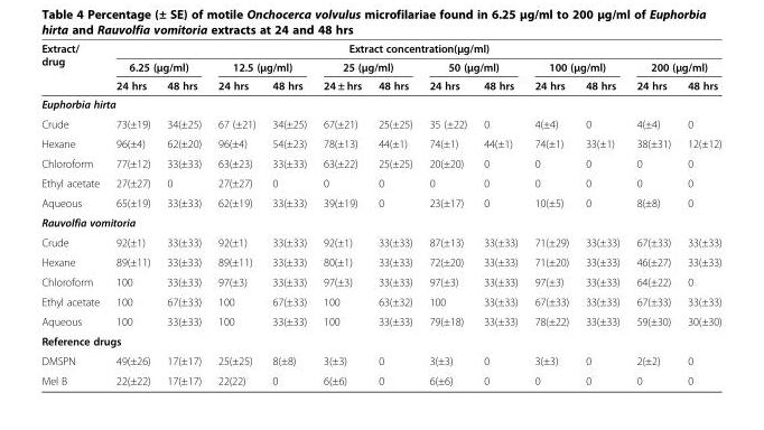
<table><thead><tr><td rowspan="3">Extract/ drug</td><td colspan="12">Extract concentration(μg/ml)</td></tr><tr><td colspan="2">6.25 (μg/ml)</td><td colspan="2">12.5 (μg/ml)</td><td colspan="2">25 (μg/ml)</td><td colspan="2">50 (μg/ml)</td><td colspan="2">100 (μg/ml)</td><td colspan="2">200 (μg/ml)</td></tr><tr><td>24 hrs</td><td>48 hrs</td><td>24 hrs</td><td>48 hrs</td><td>24 ± hrs</td><td>48 hrs</td><td>24 hrs</td><td>48 hrs</td><td>24 hrs</td><td>48 hrs</td><td>24 hrs</td><td>48 hrs</td></tr></thead><tbody><tr><td colspan="13">Euphorbia hirta</td></tr><tr><td>Crude</td><td>73(±19)</td><td>34(±25)</td><td>67 (±21)</td><td>34(±25)</td><td>67(±21)</td><td>25(±25)</td><td>35 (±22)</td><td>0</td><td>4(±4)</td><td>0</td><td>4(±4)</td><td>0</td></tr><tr><td>Hexane</td><td>96(±4)</td><td>62(±20)</td><td>96(±4)</td><td>54(±23)</td><td>78(±13)</td><td>44(±1)</td><td>74(±1)</td><td>44(±1)</td><td>74(±1)</td><td>33(±1)</td><td>38(±31)</td><td>12(±12)</td></tr><tr><td>Chloroform</td><td>77(±12)</td><td>33(±33)</td><td>63(±23)</td><td>33(±33)</td><td>63(±22)</td><td>25(±25)</td><td>20(±20)</td><td>0</td><td>0</td><td>0</td><td>0</td><td>0</td></tr><tr><td>Ethyl acetate</td><td>27(±27)</td><td>0</td><td>27(±27)</td><td>0</td><td>0</td><td>0</td><td>0</td><td>0</td><td>0</td><td>0</td><td>0</td><td>0</td></tr><tr><td>Aqueous</td><td>65(±19)</td><td>33(±33)</td><td>62(±19)</td><td>33(±33)</td><td>39(±19)</td><td>0</td><td>23(±17)</td><td>0</td><td>10(±5)</td><td>0</td><td>8(±8)</td><td>0</td></tr><tr><td colspan="13">Rauvolfia vomitoria</td></tr><tr><td>Crude</td><td>92(±1)</td><td>33(±33)</td><td>92(±1)</td><td>33(±33)</td><td>92(±1)</td><td>33(±33)</td><td>87(±13)</td><td>33(±33)</td><td>71(±29)</td><td>33(±33)</td><td>67(±33)</td><td>33(±33)</td></tr><tr><td>Hexane</td><td>89(±11)</td><td>33(±33)</td><td>89(±11)</td><td>33(±33)</td><td>80(±1)</td><td>33(±33)</td><td>72(±20)</td><td>33(±33)</td><td>71(±20)</td><td>33(±33)</td><td>46(±27)</td><td>33(±33)</td></tr><tr><td>Chloroform</td><td>100</td><td>33(±33)</td><td>97(±3)</td><td>33(±33)</td><td>97(±3)</td><td>33(±33)</td><td>97(±3)</td><td>33(±33)</td><td>97(±3)</td><td>33(±33)</td><td>64(±22)</td><td>0</td></tr><tr><td>Ethyl acetate</td><td>100</td><td>67(±33)</td><td>100</td><td>67(±33)</td><td>100</td><td>63(±32)</td><td>100</td><td>33(±33)</td><td>67(±33)</td><td>33(±33)</td><td>67(±33)</td><td>33(±33)</td></tr><tr><td>Aqueous</td><td>100</td><td>33(±33)</td><td>100</td><td>33(±33)</td><td>100</td><td>33(±33)</td><td>79(±18)</td><td>33(±33)</td><td>78(±22)</td><td>33(±33)</td><td>59(±30)</td><td>30(±30)</td></tr><tr><td colspan="13">Reference drugs</td></tr><tr><td>DMSPN</td><td>49(±26)</td><td>17(±17)</td><td>25(±25)</td><td>8(±8)</td><td>3(±3)</td><td>0</td><td>3(±3)</td><td>0</td><td>3(±3)</td><td>0</td><td>2(±2)</td><td>0</td></tr><tr><td>Mel B</td><td>22(±22)</td><td>17(±17)</td><td>22(22)</td><td>0</td><td>6(±6)</td><td>0</td><td>6(±6)</td><td>0</td><td>0</td><td>0</td><td>0</td><td>0</td></tr></tbody></table>